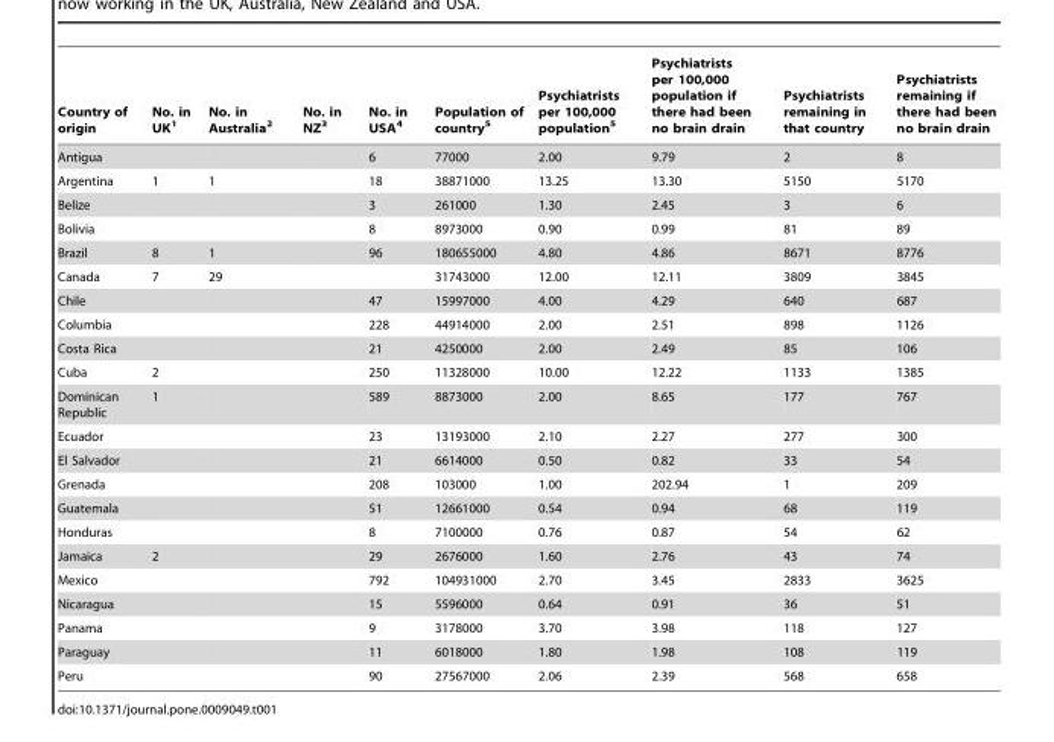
<table><thead><tr><td>Country of origin</td><td>No. in UK<sup>1</sup></td><td>No. in Australia<sup>2</sup></td><td>No. in NZ<sup>3</sup></td><td>No. in USA<sup>4</sup></td><td>Population of country<sup>5</sup></td><td>Psychiatrists per 100,000 population<sup>5</sup></td><td>Psychiatrists per 100,000 population if there had been no brain drain</td><td>Psychiatrists remaining in that country</td><td>Psychiatrists remaining if there had been no brain drain</td></tr></thead><tbody><tr><td>Antigua</td><td></td><td></td><td></td><td>6</td><td>77000</td><td>2.00</td><td>9.79</td><td>2</td><td>8</td></tr><tr><td>Argentina</td><td>1</td><td>1</td><td></td><td>18</td><td>38871000</td><td>13.25</td><td>13.30</td><td>5150</td><td>5170</td></tr><tr><td>Belize</td><td></td><td></td><td></td><td>3</td><td>261000</td><td>1.30</td><td>2.45</td><td>3</td><td>6</td></tr><tr><td>Bolivia</td><td></td><td></td><td></td><td>8</td><td>8973000</td><td>0.90</td><td>0.99</td><td>81</td><td>89</td></tr><tr><td>Brazil</td><td>8</td><td>1</td><td></td><td>96</td><td>180655000</td><td>4.80</td><td>4.86</td><td>8671</td><td>8776</td></tr><tr><td>Canada</td><td>7</td><td>29</td><td></td><td></td><td>31743000</td><td>12.00</td><td>12.11</td><td>3809</td><td>3845</td></tr><tr><td>Chile</td><td></td><td></td><td></td><td>47</td><td>15997000</td><td>4.00</td><td>4.29</td><td>640</td><td>687</td></tr><tr><td>Columbia</td><td></td><td></td><td></td><td>228</td><td>44914000</td><td>2.00</td><td>2.51</td><td>898</td><td>1126</td></tr><tr><td>Costa Rica</td><td></td><td></td><td></td><td>21</td><td>4250000</td><td>2.00</td><td>2.49</td><td>85</td><td>106</td></tr><tr><td>Cuba</td><td>2</td><td></td><td></td><td>250</td><td>11328000</td><td>10.00</td><td>12.22</td><td>1133</td><td>1385</td></tr><tr><td>Dominican Republic</td><td>1</td><td></td><td></td><td>589</td><td>8873000</td><td>2.00</td><td>8.65</td><td>177</td><td>767</td></tr><tr><td>Ecuador</td><td></td><td></td><td></td><td>23</td><td>13193000</td><td>2.10</td><td>2.27</td><td>277</td><td>300</td></tr><tr><td>El Salvador</td><td></td><td></td><td></td><td>21</td><td>6614000</td><td>0.50</td><td>0.82</td><td>33</td><td>54</td></tr><tr><td>Grenada</td><td></td><td></td><td></td><td>208</td><td>103000</td><td>1.00</td><td>202.94</td><td>1</td><td>209</td></tr><tr><td>Guatemala</td><td></td><td></td><td></td><td>51</td><td>12661000</td><td>0.54</td><td>0.94</td><td>68</td><td>119</td></tr><tr><td>Honduras</td><td></td><td></td><td></td><td>8</td><td>7100000</td><td>0.76</td><td>0.87</td><td>54</td><td>62</td></tr><tr><td>Jamaica</td><td>2</td><td></td><td></td><td>29</td><td>2676000</td><td>1.60</td><td>2.76</td><td>43</td><td>74</td></tr><tr><td>Mexico</td><td></td><td></td><td></td><td>792</td><td>104931000</td><td>2.70</td><td>3.45</td><td>2833</td><td>3625</td></tr><tr><td>Nicaragua</td><td></td><td></td><td></td><td>15</td><td>5596000</td><td>0.64</td><td>0.91</td><td>36</td><td>51</td></tr><tr><td>Panama</td><td></td><td></td><td></td><td>9</td><td>3178000</td><td>3.70</td><td>3.98</td><td>118</td><td>127</td></tr><tr><td>Paraguay</td><td></td><td></td><td></td><td>11</td><td>6018000</td><td>1.80</td><td>1.98</td><td>108</td><td>119</td></tr><tr><td>Peru</td><td></td><td></td><td></td><td>90</td><td>27567000</td><td>2.06</td><td>2.39</td><td>568</td><td>658</td></tr></tbody></table>